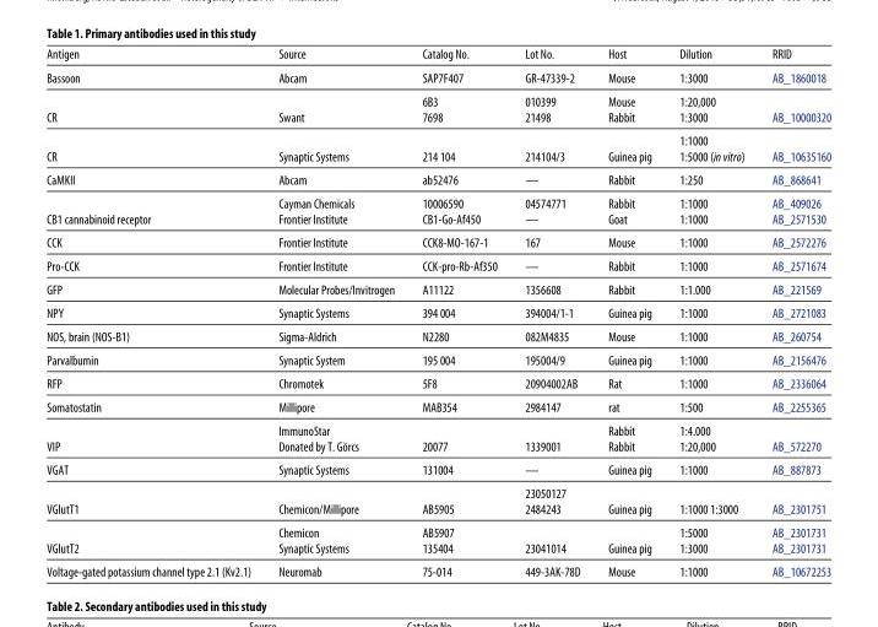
<table><thead><tr><td>Antigen</td><td>Source</td><td>Catalog No.</td><td>Lot No.</td><td>Host</td><td>Dilution</td><td>RRID</td></tr></thead><tbody><tr><td rowspan="2">Bassoon</td><td>Abcam</td><td>SAP7F407</td><td>GR-47339-2</td><td>Mouse</td><td>1:3000</td><td>AB_1860018</td></tr><tr><td></td><td>6B3</td><td>010399</td><td>Mouse</td><td>1:20,000</td><td></td></tr><tr><td rowspan="2">CR</td><td>Swant</td><td>7698</td><td>21498</td><td>Rabbit</td><td>1:3000</td><td>AB_10000320</td></tr><tr><td></td><td></td><td></td><td></td><td>1:1000</td><td></td></tr><tr><td>CR</td><td>Synaptic Systems</td><td>214 104</td><td>214104/3</td><td>Guinea pig</td><td>1:5000 (in vitro)</td><td>AB_10635160</td></tr><tr><td rowspan="2">CaMKII</td><td>Abcam</td><td>ab52476</td><td>—</td><td>Rabbit</td><td>1:250</td><td>AB_868641</td></tr><tr><td>Cayman Chemicals</td><td>10006590</td><td>04574771</td><td>Rabbit</td><td>1:1000</td><td>AB_409026</td></tr><tr><td>CB1 cannabinoid receptor</td><td>Frontier Institute</td><td>CB1-Go-Af450</td><td>—</td><td>Goat</td><td>1:1000</td><td>AB_2571530</td></tr><tr><td>CCK</td><td>Frontier Institute</td><td>CCK8-MO-167-1</td><td>167</td><td>Mouse</td><td>1:1000</td><td>AB_2572276</td></tr><tr><td>Pro-CCK</td><td>Frontier Institute</td><td>CCK-pro-Rb-Af350</td><td>—</td><td>Rabbit</td><td>1:1000</td><td>AB_2571674</td></tr><tr><td>GFP</td><td>Molecular Probes/Invitrogen</td><td>A11122</td><td>1356608</td><td>Rabbit</td><td>1:1.000</td><td>AB_221569</td></tr><tr><td>NPY</td><td>Synaptic Systems</td><td>394 004</td><td>394004/1-1</td><td>Guinea pig</td><td>1:1000</td><td>AB_2721083</td></tr><tr><td>NOS, brain (NOS-B1)</td><td>Sigma-Aldrich</td><td>N2280</td><td>082M4835</td><td>Mouse</td><td>1:1000</td><td>AB_260754</td></tr><tr><td>Parvalbumin</td><td>Synaptic System</td><td>195 004</td><td>195004/9</td><td>Guinea pig</td><td>1:1000</td><td>AB_2156476</td></tr><tr><td>RFP</td><td>Chromotek</td><td>5F8</td><td>20904002AB</td><td>Rat</td><td>1:1000</td><td>AB_2336064</td></tr><tr><td rowspan="2">Somatostatin</td><td>Millipore</td><td>MAB354</td><td>2984147</td><td>rat</td><td>1:500</td><td>AB_2255365</td></tr><tr><td>ImmunoStar</td><td></td><td></td><td>Rabbit</td><td>1:4.000</td><td></td></tr><tr><td>VIP</td><td>Donated by T. Görcs</td><td>20077</td><td>1339001</td><td>Rabbit</td><td>1:20,000</td><td>AB_572270</td></tr><tr><td rowspan="2">VGAT</td><td>Synaptic Systems</td><td>131004</td><td>—</td><td>Guinea pig</td><td>1:1000</td><td>AB_887873</td></tr><tr><td></td><td></td><td>23050127</td><td></td><td></td><td></td></tr><tr><td rowspan="2">VGlutT1</td><td>Chemicon/Millipore</td><td>AB5905</td><td>2484243</td><td>Guinea pig</td><td>1:1000 1:3000</td><td>AB_2301751</td></tr><tr><td>Chemicon</td><td>AB5907</td><td></td><td></td><td>1:5000</td><td>AB_2301731</td></tr><tr><td>VGlutT2</td><td>Synaptic Systems</td><td>135404</td><td>23041014</td><td>Guinea pig</td><td>1:3000</td><td>AB_2301731</td></tr><tr><td>Voltage-gated potassium channel type 2.1 (Kv2.1)</td><td>Neuromab</td><td>75-014</td><td>449-3AK-78D</td><td>Mouse</td><td>1:1000</td><td>AB_10672253</td></tr></tbody></table>